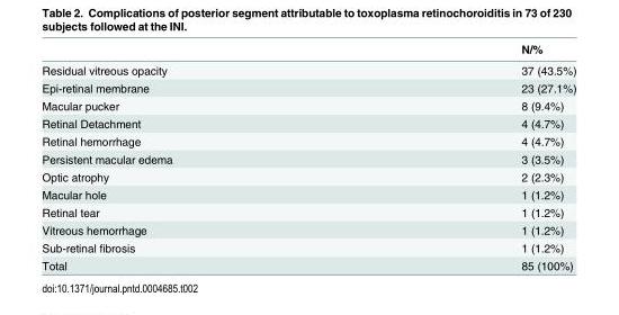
<table><thead><tr><td></td><td>N/%</td></tr></thead><tbody><tr><td>Residual vitreous opacity</td><td>37 (43.5%)</td></tr><tr><td>Epi-retinal membrane</td><td>23 (27.1%)</td></tr><tr><td>Macular pucker</td><td>8 (9.4%)</td></tr><tr><td>Retinal Detachment</td><td>4 (4.7%)</td></tr><tr><td>Retinal hemorrhage</td><td>4 (4.7%)</td></tr><tr><td>Persistent macular edema</td><td>3 (3.5%)</td></tr><tr><td>Optic atrophy</td><td>2 (2.3%)</td></tr><tr><td>Macular hole</td><td>1 (1.2%)</td></tr><tr><td>Retinal tear</td><td>1 (1.2%)</td></tr><tr><td>Vitreous hemorrhage</td><td>1 (1.2%)</td></tr><tr><td>Sub-retinal fibrosis</td><td>1 (1.2%)</td></tr><tr><td>Total</td><td>85 (100%)</td></tr></tbody></table>